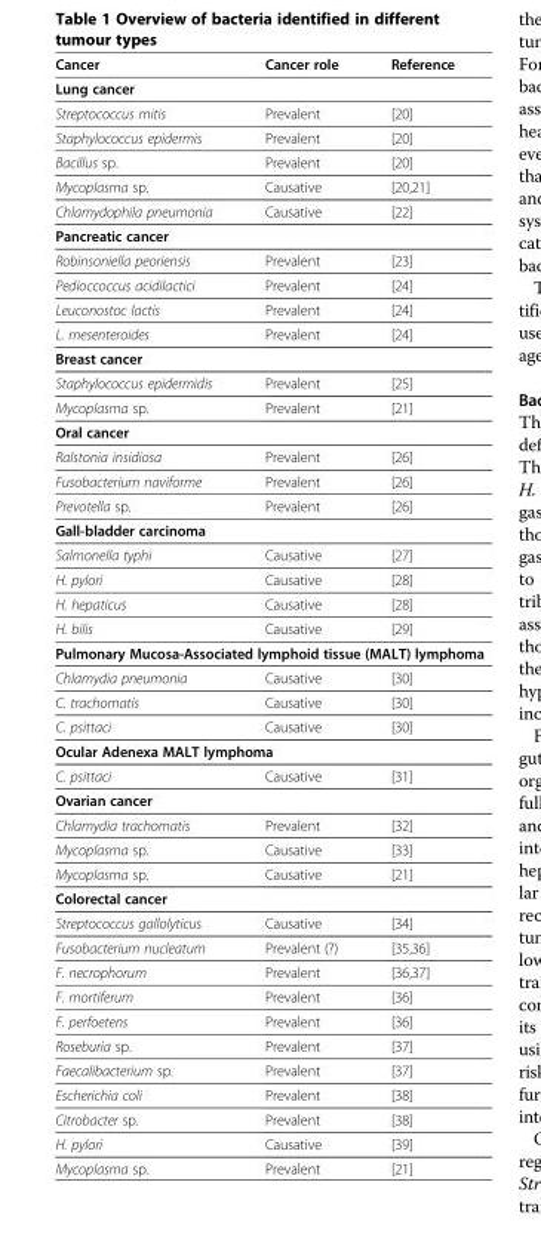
<table><thead><tr><td>Cancer</td><td>Cancer role</td><td>Reference</td></tr></thead><tbody><tr><td colspan="3">Lung cancer</td></tr><tr><td>Streptococcus mitis</td><td>Prevalent</td><td>[20]</td></tr><tr><td>Staphylococcus epidermis</td><td>Prevalent</td><td>[20]</td></tr><tr><td>Bacillus sp.</td><td>Prevalent</td><td>[20]</td></tr><tr><td>Mycoplasma sp.</td><td>Causative</td><td>[20,21]</td></tr><tr><td>Chlamydophila pneumonia</td><td>Causative</td><td>[22]</td></tr><tr><td colspan="3">Pancreatic cancer</td></tr><tr><td>Robinsoniella peoriensis</td><td>Prevalent</td><td>[23]</td></tr><tr><td>Pedioccoccus acidilactici</td><td>Prevalent</td><td>[24]</td></tr><tr><td>Leuconostoc lactis</td><td>Prevalent</td><td>[24]</td></tr><tr><td>L. mesenteroides</td><td>Prevalent</td><td>[24]</td></tr><tr><td colspan="3">Breast cancer</td></tr><tr><td>Staphylococcus epidermidis</td><td>Prevalent</td><td>[25]</td></tr><tr><td>Mycoplasma sp.</td><td>Prevalent</td><td>[21]</td></tr><tr><td colspan="3">Oral cancer</td></tr><tr><td>Ralstonia insidiosa</td><td>Prevalent</td><td>[26]</td></tr><tr><td>Fusobacterium naviforme</td><td>Prevalent</td><td>[26]</td></tr><tr><td>Prevotella sp.</td><td>Prevalent</td><td>[26]</td></tr><tr><td colspan="3">Gall-bladder carcinoma</td></tr><tr><td>Salmonella typhi</td><td>Causative</td><td>[27]</td></tr><tr><td>H. pylori</td><td>Causative</td><td>[28]</td></tr><tr><td>H. hepaticus</td><td>Causative</td><td>[28]</td></tr><tr><td>H. bilis</td><td>Causative</td><td>[29]</td></tr><tr><td colspan="3">Pulmonary Mucosa-Associated lymphoid tissue (MALT) lymphoma</td></tr><tr><td>Chlamydia pneumonia</td><td>Causative</td><td>[30]</td></tr><tr><td>C. trachomatis</td><td>Causative</td><td>[30]</td></tr><tr><td>C. psittaci</td><td>Causative</td><td>[30]</td></tr><tr><td colspan="3">Ocular Adenexa MALT lymphoma</td></tr><tr><td>C. psittaci</td><td>Causative</td><td>[31]</td></tr><tr><td colspan="3">Ovarian cancer</td></tr><tr><td>Chlamydia trachomatis</td><td>Prevalent</td><td>[32]</td></tr><tr><td>Mycoplasma sp.</td><td>Causative</td><td>[33]</td></tr><tr><td>Mycoplasma sp.</td><td>Causative</td><td>[21]</td></tr><tr><td colspan="3">Colorectal cancer</td></tr><tr><td>Streptococcus gallolyticus</td><td>Causative</td><td>[34]</td></tr><tr><td>Fusobacterium nucleatum</td><td>Prevalent (?)</td><td>[35,36]</td></tr><tr><td>F. necrophorum</td><td>Prevalent</td><td>[36,37]</td></tr><tr><td>F. mortiferum</td><td>Prevalent</td><td>[36]</td></tr><tr><td>F. perfoetens</td><td>Prevalent</td><td>[36]</td></tr><tr><td>Roseburia sp.</td><td>Prevalent</td><td>[37]</td></tr><tr><td>Faecalibacterium sp.</td><td>Prevalent</td><td>[37]</td></tr><tr><td>Escherichia coli</td><td>Prevalent</td><td>[38]</td></tr><tr><td>Citrobacter sp.</td><td>Prevalent</td><td>[38]</td></tr><tr><td>H. pylori</td><td>Causative</td><td>[39]</td></tr><tr><td>Mycoplasma sp.</td><td>Prevalent</td><td>[21]</td></tr></tbody></table>